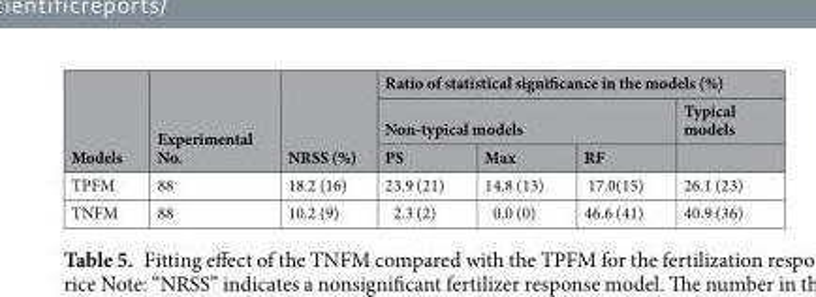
<table><thead><tr><td rowspan="3">Models</td><td rowspan="3">Experimental No.</td><td rowspan="3">NRSS (%)</td><td colspan="4">Ratio of statistical significance in the models (%)</td></tr><tr><td colspan="3">Non-typical models</td><td rowspan="2">Typical models</td></tr><tr><td>PS</td><td>Max</td><td>RF</td></tr></thead><tbody><tr><td>TPFM</td><td>88</td><td>18.2 (16)</td><td>23.9 (21)</td><td>14.8 (13)</td><td>17.0(15)</td><td>26.1 (23)</td></tr><tr><td>TNFM</td><td>88</td><td>10.2 (9)</td><td>2.3 (2)</td><td>0.0 (0)</td><td>46.6 (41)</td><td>40.9 (36)</td></tr></tbody></table>